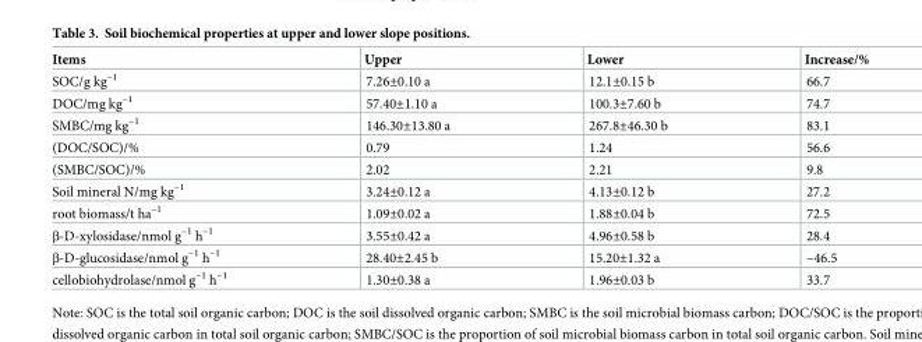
<table><thead><tr><td>Items</td><td>Upper</td><td>Lower</td><td>Increase/%</td></tr></thead><tbody><tr><td>SOC/g kg<sup>–1</sup></td><td>7.26±0.10 a</td><td>12.1±0.15 b</td><td>66.7</td></tr><tr><td>DOC/mg kg<sup>–1</sup></td><td>57.40±1.10 a</td><td>100.3±7.60 b</td><td>74.7</td></tr><tr><td>SMBC/mg kg<sup>–1</sup></td><td>146.30±13.80 a</td><td>267.8±46.30 b</td><td>83.1</td></tr><tr><td>(DOC/SOC)/%</td><td>0.79</td><td>1.24</td><td>56.6</td></tr><tr><td>(SMBC/SOC)/%</td><td>2.02</td><td>2.21</td><td>9.8</td></tr><tr><td>Soil mineral N/mg kg<sup>–1</sup></td><td>3.24±0.12 a</td><td>4.13±0.12 b</td><td>27.2</td></tr><tr><td>root biomass/t ha<sup>–1</sup></td><td>1.09±0.02 a</td><td>1.88±0.04 b</td><td>72.5</td></tr><tr><td>β-D-xylosidase/nmol g<sup>–1</sup> h<sup>–1</sup></td><td>3.55±0.42 a</td><td>4.96±0.58 b</td><td>28.4</td></tr><tr><td>β-D-glucosidase/nmol g<sup>–1</sup> h<sup>–1</sup></td><td>28.40±2.45 b</td><td>15.20±1.32 a</td><td>–46.5</td></tr><tr><td>cellobiohydrolase/nmol g<sup>–1</sup> h<sup>–1</sup></td><td>1.30±0.38 a</td><td>1.96±0.03 b</td><td>33.7</td></tr></tbody></table>